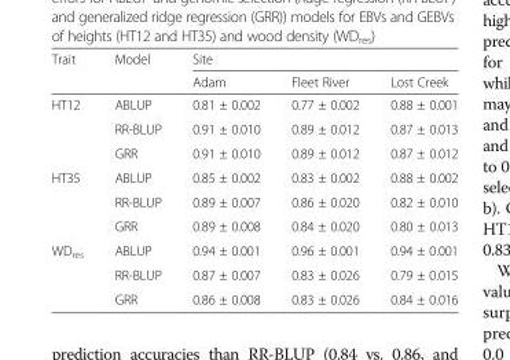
<table><thead><tr><td rowspan="2">Trait</td><td rowspan="2">Model</td><td colspan="3">Site</td></tr><tr><td>Adam</td><td>Fleet River</td><td>Lost Creek</td></tr></thead><tbody><tr><td rowspan="3">HT12</td><td>ABLUP</td><td>0.81 ± 0.002</td><td>0.77 ± 0.002</td><td>0.88 ± 0.001</td></tr><tr><td>RR-BLUP</td><td>0.91 ± 0.010</td><td>0.89 ± 0.012</td><td>0.87 ± 0.013</td></tr><tr><td>GRR</td><td>0.91 ± 0.010</td><td>0.89 ± 0.012</td><td>0.87 ± 0.012</td></tr><tr><td rowspan="3">HT35</td><td>ABLUP</td><td>0.85 ± 0.002</td><td>0.83 ± 0.002</td><td>0.88 ± 0.002</td></tr><tr><td>RR-BLUP</td><td>0.89 ± 0.007</td><td>0.86 ± 0.020</td><td>0.82 ± 0.010</td></tr><tr><td>GRR</td><td>0.89 ± 0.008</td><td>0.84 ± 0.020</td><td>0.80 ± 0.013</td></tr><tr><td rowspan="3">WD<sub>res</sub></td><td>ABLUP</td><td>0.94 ± 0.001</td><td>0.96 ± 0.001</td><td>0.94 ± 0.001</td></tr><tr><td>RR-BLUP</td><td>0.87 ± 0.007</td><td>0.83 ± 0.026</td><td>0.79 ± 0.015</td></tr><tr><td>GRR</td><td>0.86 ± 0.008</td><td>0.83 ± 0.026</td><td>0.84 ± 0.016</td></tr></tbody></table>